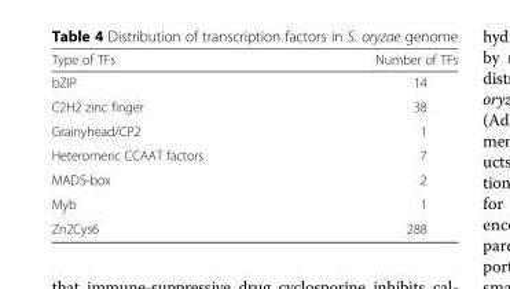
<table><thead><tr><td>Type of TFs</td><td>Number of TFs</td></tr></thead><tbody><tr><td>bZIP</td><td>14</td></tr><tr><td>C2H2 zinc finger</td><td>38</td></tr><tr><td>Grainyhead/CP2</td><td>1</td></tr><tr><td>Heteromeric CCAAT factors</td><td>7</td></tr><tr><td>MADS-box</td><td>2</td></tr><tr><td>Myb</td><td>1</td></tr><tr><td>Zn2Cys6</td><td>288</td></tr></tbody></table>